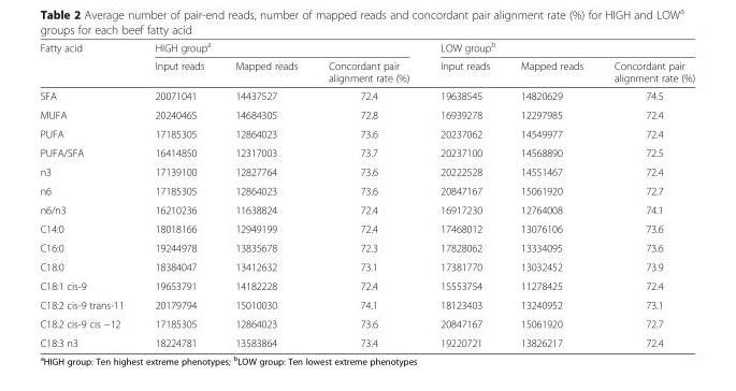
<table><thead><tr><td rowspan="2">Fatty acid</td><td colspan="3">HIGH group<sup>a</sup></td><td colspan="3">LOW group<sup>b</sup></td></tr><tr><td>Input reads</td><td>Mapped reads</td><td>Concordant pair alignment rate (%)</td><td>Input reads</td><td>Mapped reads</td><td>Concordant pair alignment rate (%)</td></tr></thead><tbody><tr><td>SFA</td><td>20071041</td><td>14437527</td><td>72.4</td><td>19638545</td><td>14820629</td><td>74.5</td></tr><tr><td>MUFA</td><td>20240465</td><td>14684305</td><td>72.8</td><td>16939278</td><td>12297985</td><td>72.4</td></tr><tr><td>PUFA</td><td>17185305</td><td>12864023</td><td>73.6</td><td>20237062</td><td>14549977</td><td>72.4</td></tr><tr><td>PUFA/SFA</td><td>16414850</td><td>12317003</td><td>73.7</td><td>20237100</td><td>14568890</td><td>72.5</td></tr><tr><td>n3</td><td>17139100</td><td>12827764</td><td>73.6</td><td>20222528</td><td>14551467</td><td>72.4</td></tr><tr><td>n6</td><td>17185305</td><td>12864023</td><td>73.6</td><td>20847167</td><td>15061920</td><td>72.7</td></tr><tr><td>n6/n3</td><td>16210236</td><td>11638824</td><td>72.4</td><td>16917230</td><td>12764008</td><td>74.1</td></tr><tr><td>C14:0</td><td>18018166</td><td>12949199</td><td>72.4</td><td>17468012</td><td>13076106</td><td>73.6</td></tr><tr><td>C16:0</td><td>19244978</td><td>13835678</td><td>72.3</td><td>17828062</td><td>13334095</td><td>73.6</td></tr><tr><td>C18:0</td><td>18384047</td><td>13412632</td><td>73.1</td><td>17381770</td><td>13032452</td><td>73.9</td></tr><tr><td>C18:1 cis-9</td><td>19653791</td><td>14182228</td><td>72.4</td><td>15553754</td><td>11278425</td><td>72.4</td></tr><tr><td>C18:2 cis-9 trans-11</td><td>20179794</td><td>15010030</td><td>74.1</td><td>18123403</td><td>13240952</td><td>73.1</td></tr><tr><td>C18:2 cis-9 cis −12</td><td>17185305</td><td>12864023</td><td>73.6</td><td>20847167</td><td>15061920</td><td>72.7</td></tr><tr><td>C18:3 n3</td><td>18224781</td><td>13583864</td><td>73.4</td><td>19220721</td><td>13826217</td><td>72.4</td></tr></tbody></table>